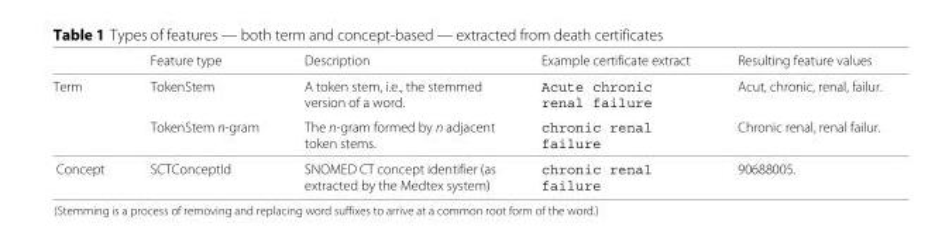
<table><thead><tr><td></td><td>Feature type</td><td>Description</td><td>Example certificate extract</td><td>Resulting feature values</td></tr></thead><tbody><tr><td rowspan="2">Term</td><td>TokenStem</td><td>A token stem, i.e., the stemmed version of a word.</td><td>Acute chronic renal failure</td><td>Acut, chronic, renal, failur.</td></tr><tr><td>TokenStem n-gram</td><td>The n-gram formed by n adjacent token stems.</td><td>chronic renal failure</td><td>Chronic renal, renal failur.</td></tr><tr><td>Concept</td><td>SCTConceptId</td><td>SNOMED CT concept identifier (as extracted by the Medtex system)</td><td>chronic renal failure</td><td>90688005.</td></tr></tbody></table>